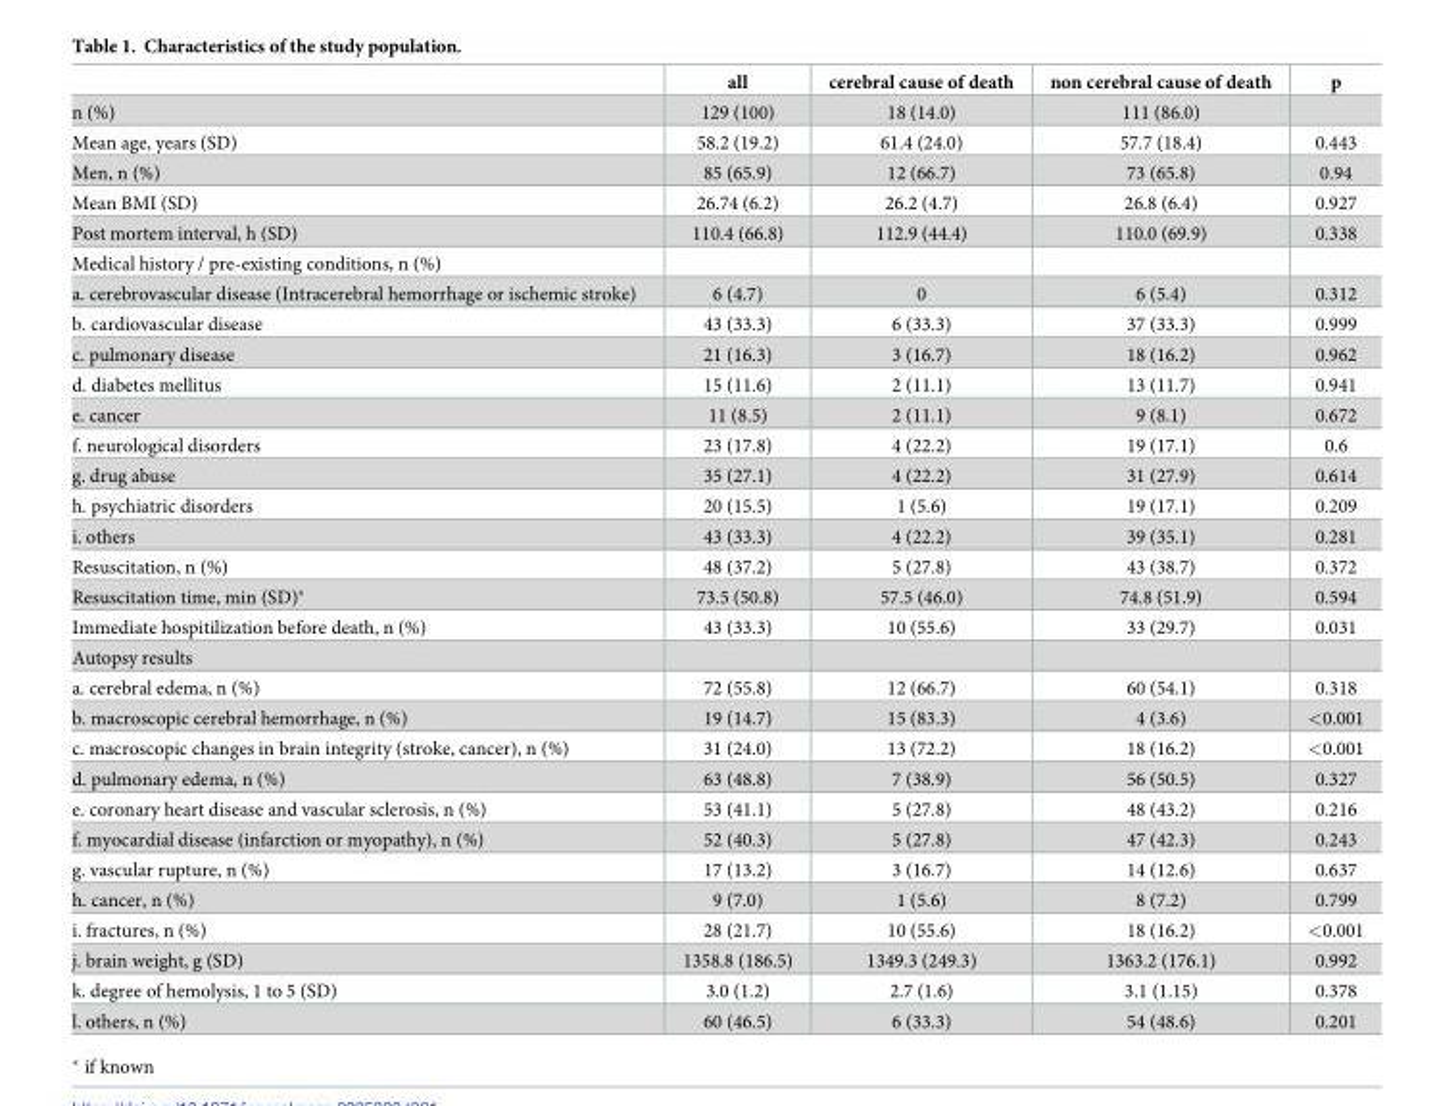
<table><thead><tr><td></td><td>all</td><td>cerebral cause of death</td><td>non cerebral cause of death</td><td>p</td></tr></thead><tbody><tr><td>n (%)</td><td>129 (100)</td><td>18 (14.0)</td><td>111 (86.0)</td><td></td></tr><tr><td>Mean age, years (SD)</td><td>58.2 (19.2)</td><td>61.4 (24.0)</td><td>57.7 (18.4)</td><td>0.443</td></tr><tr><td>Men, n (%)</td><td>85 (65.9)</td><td>12 (66.7)</td><td>73 (65.8)</td><td>0.94</td></tr><tr><td>Mean BMI (SD)</td><td>26.74 (6.2)</td><td>26.2 (4.7)</td><td>26.8 (6.4)</td><td>0.927</td></tr><tr><td>Post mortem interval, h (SD)</td><td>110.4 (66.8)</td><td>112.9 (44.4)</td><td>110.0 (69.9)</td><td>0.338</td></tr><tr><td colspan="5">Medical history / pre-existing conditions, n (%)</td></tr><tr><td>a. cerebrovascular disease (Intracerebral hemorrhage or ischemic stroke)</td><td>6 (4.7)</td><td>0</td><td>6 (5.4)</td><td>0.312</td></tr><tr><td>b. cardiovascular disease</td><td>43 (33.3)</td><td>6 (33.3)</td><td>37 (33.3)</td><td>0.999</td></tr><tr><td>c. pulmonary disease</td><td>21 (16.3)</td><td>3 (16.7)</td><td>18 (16.2)</td><td>0.962</td></tr><tr><td>d. diabetes mellitus</td><td>15 (11.6)</td><td>2 (11.1)</td><td>13 (11.7)</td><td>0.941</td></tr><tr><td>e. cancer</td><td>11 (8.5)</td><td>2 (11.1)</td><td>9 (8.1)</td><td>0.672</td></tr><tr><td>f. neurological disorders</td><td>23 (17.8)</td><td>4 (22.2)</td><td>19 (17.1)</td><td>0.6</td></tr><tr><td>g. drug abuse</td><td>35 (27.1)</td><td>4 (22.2)</td><td>31 (27.9)</td><td>0.614</td></tr><tr><td>h. psychiatric disorders</td><td>20 (15.5)</td><td>1 (5.6)</td><td>19 (17.1)</td><td>0.209</td></tr><tr><td>i. others</td><td>43 (33.3)</td><td>4 (22.2)</td><td>39 (35.1)</td><td>0.281</td></tr><tr><td>Resuscitation, n (%)</td><td>48 (37.2)</td><td>5 (27.8)</td><td>43 (38.7)</td><td>0.372</td></tr><tr><td>Resuscitation time, min (SD)*</td><td>73.5 (50.8)</td><td>57.5 (46.0)</td><td>74.8 (51.9)</td><td>0.594</td></tr><tr><td>Immediate hospitilization before death, n (%)</td><td>43 (33.3)</td><td>10 (55.6)</td><td>33 (29.7)</td><td>0.031</td></tr><tr><td colspan="5">Autopsy results</td></tr><tr><td>a. cerebral edema, n (%)</td><td>72 (55.8)</td><td>12 (66.7)</td><td>60 (54.1)</td><td>0.318</td></tr><tr><td>b. macroscopic cerebral hemorrhage, n (%)</td><td>19 (14.7)</td><td>15 (83.3)</td><td>4 (3.6)</td><td>&lt;0.001</td></tr><tr><td>c. macroscopic changes in brain integrity (stroke, cancer), n (%)</td><td>31 (24.0)</td><td>13 (72.2)</td><td>18 (16.2)</td><td>&lt;0.001</td></tr><tr><td>d. pulmonary edema, n (%)</td><td>63 (48.8)</td><td>7 (38.9)</td><td>56 (50.5)</td><td>0.327</td></tr><tr><td>e. coronary heart disease and vascular sclerosis, n (%)</td><td>53 (41.1)</td><td>5 (27.8)</td><td>48 (43.2)</td><td>0.216</td></tr><tr><td>f. myocardial disease (infarction or myopathy), n (%)</td><td>52 (40.3)</td><td>5 (27.8)</td><td>47 (42.3)</td><td>0.243</td></tr><tr><td>g. vascular rupture, n (%)</td><td>17 (13.2)</td><td>3 (16.7)</td><td>14 (12.6)</td><td>0.637</td></tr><tr><td>h. cancer, n (%)</td><td>9 (7.0)</td><td>1 (5.6)</td><td>8 (7.2)</td><td>0.799</td></tr><tr><td>i. fractures, n (%)</td><td>28 (21.7)</td><td>10 (55.6)</td><td>18 (16.2)</td><td>&lt;0.001</td></tr><tr><td>j. brain weight, g (SD)</td><td>1358.8 (186.5)</td><td>1349.3 (249.3)</td><td>1363.2 (176.1)</td><td>0.992</td></tr><tr><td>k. degree of hemolysis, 1 to 5 (SD)</td><td>3.0 (1.2)</td><td>2.7 (1.6)</td><td>3.1 (1.15)</td><td>0.378</td></tr><tr><td>l. others, n (%)</td><td>60 (46.5)</td><td>6 (33.3)</td><td>54 (48.6)</td><td>0.201</td></tr></tbody></table>